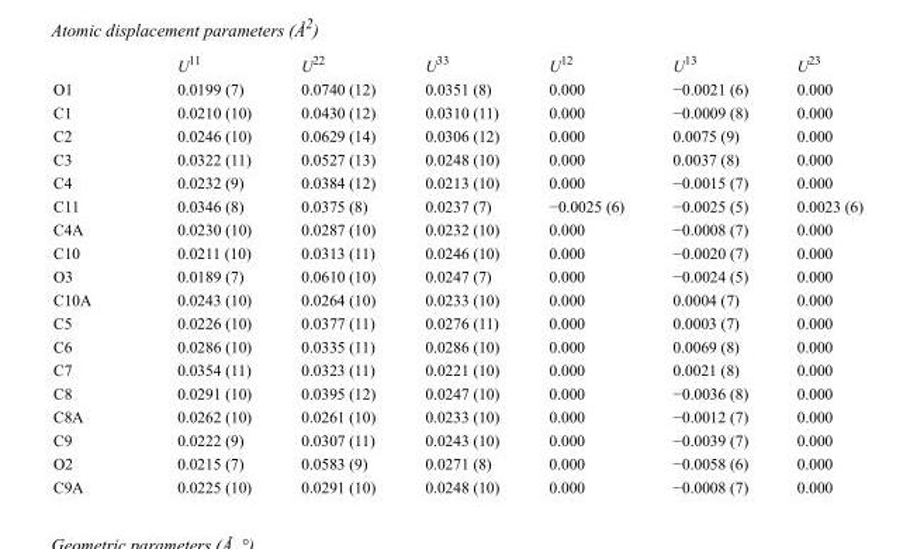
<table><thead><tr><td></td><td>U<sup>11</sup></td><td>U<sup>22</sup></td><td>U<sup>33</sup></td><td>U<sup>12</sup></td><td>U<sup>13</sup></td><td>U<sup>23</sup></td></tr></thead><tbody><tr><td>O1</td><td>0.0199 (7)</td><td>0.0740 (12)</td><td>0.0351 (8)</td><td>0.000</td><td>−0.0021 (6)</td><td>0.000</td></tr><tr><td>C1</td><td>0.0210 (10)</td><td>0.0430 (12)</td><td>0.0310 (11)</td><td>0.000</td><td>−0.0009 (8)</td><td>0.000</td></tr><tr><td>C2</td><td>0.0246 (10)</td><td>0.0629 (14)</td><td>0.0306 (12)</td><td>0.000</td><td>0.0075 (9)</td><td>0.000</td></tr><tr><td>C3</td><td>0.0322 (11)</td><td>0.0527 (13)</td><td>0.0248 (10)</td><td>0.000</td><td>0.0037 (8)</td><td>0.000</td></tr><tr><td>C4</td><td>0.0232 (9)</td><td>0.0384 (12)</td><td>0.0213 (10)</td><td>0.000</td><td>−0.0015 (7)</td><td>0.000</td></tr><tr><td>C11</td><td>0.0346 (8)</td><td>0.0375 (8)</td><td>0.0237 (7)</td><td>−0.0025 (6)</td><td>−0.0025 (5)</td><td>0.0023 (6)</td></tr><tr><td>C4A</td><td>0.0230 (10)</td><td>0.0287 (10)</td><td>0.0232 (10)</td><td>0.000</td><td>−0.0008 (7)</td><td>0.000</td></tr><tr><td>C10</td><td>0.0211 (10)</td><td>0.0313 (11)</td><td>0.0246 (10)</td><td>0.000</td><td>−0.0020 (7)</td><td>0.000</td></tr><tr><td>O3</td><td>0.0189 (7)</td><td>0.0610 (10)</td><td>0.0247 (7)</td><td>0.000</td><td>−0.0024 (5)</td><td>0.000</td></tr><tr><td>C10A</td><td>0.0243 (10)</td><td>0.0264 (10)</td><td>0.0233 (10)</td><td>0.000</td><td>0.0004 (7)</td><td>0.000</td></tr><tr><td>C5</td><td>0.0226 (10)</td><td>0.0377 (11)</td><td>0.0276 (11)</td><td>0.000</td><td>0.0003 (7)</td><td>0.000</td></tr><tr><td>C6</td><td>0.0286 (10)</td><td>0.0335 (11)</td><td>0.0286 (10)</td><td>0.000</td><td>0.0069 (8)</td><td>0.000</td></tr><tr><td>C7</td><td>0.0354 (11)</td><td>0.0323 (11)</td><td>0.0221 (10)</td><td>0.000</td><td>0.0021 (8)</td><td>0.000</td></tr><tr><td>C8</td><td>0.0291 (10)</td><td>0.0395 (12)</td><td>0.0247 (10)</td><td>0.000</td><td>−0.0036 (8)</td><td>0.000</td></tr><tr><td>C8A</td><td>0.0262 (10)</td><td>0.0261 (10)</td><td>0.0233 (10)</td><td>0.000</td><td>−0.0012 (7)</td><td>0.000</td></tr><tr><td>C9</td><td>0.0222 (9)</td><td>0.0307 (11)</td><td>0.0243 (10)</td><td>0.000</td><td>−0.0039 (7)</td><td>0.000</td></tr><tr><td>O2</td><td>0.0215 (7)</td><td>0.0583 (9)</td><td>0.0271 (8)</td><td>0.000</td><td>−0.0058 (6)</td><td>0.000</td></tr><tr><td>C9A</td><td>0.0225 (10)</td><td>0.0291 (10)</td><td>0.0248 (10)</td><td>0.000</td><td>−0.0008 (7)</td><td>0.000</td></tr></tbody></table>